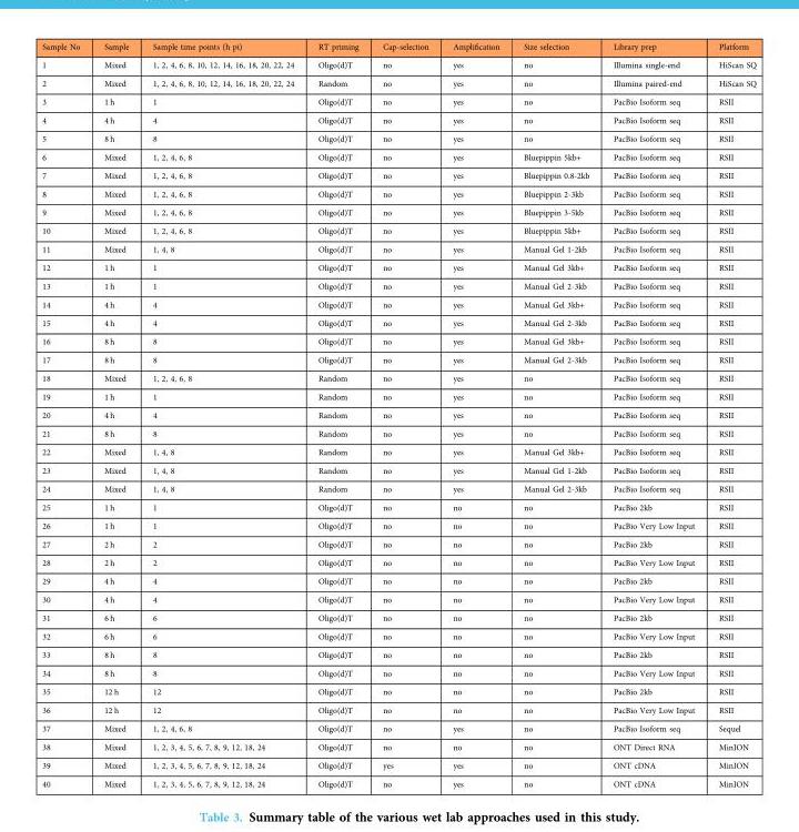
<table><thead><tr><td>Sample No</td><td>Sample</td><td>Sample time points (h pi)</td><td>RT priming</td><td>Cap-selection</td><td>Amplification</td><td>Size selection</td><td>Library prep</td><td>Platform</td></tr></thead><tbody><tr><td>1</td><td>Mixed</td><td>1, 2, 4, 6, 8, 10, 12, 14, 16, 18, 20, 22, 24</td><td>Oligo(d)T</td><td>no</td><td>yes</td><td>no</td><td>Illumina single-end</td><td>HiScan SQ</td></tr><tr><td>2</td><td>Mixed</td><td>1, 2, 4, 6, 8, 10, 12, 14, 16, 18, 20, 22, 24</td><td>Random</td><td>no</td><td>yes</td><td>no</td><td>Illumina paired-end</td><td>HiScan SQ</td></tr><tr><td>3</td><td>1 h</td><td>1</td><td>Oligo(d)T</td><td>no</td><td>yes</td><td>no</td><td>PacBio Isoform seq</td><td>RSII</td></tr><tr><td>4</td><td>4 h</td><td>4</td><td>Oligo(d)T</td><td>no</td><td>yes</td><td>no</td><td>PacBio Isoform seq</td><td>RSII</td></tr><tr><td>5</td><td>8 h</td><td>8</td><td>Oligo(d)T</td><td>no</td><td>yes</td><td>no</td><td>PacBio Isoform seq</td><td>RSII</td></tr><tr><td>6</td><td>Mixed</td><td>1, 2, 4, 6, 8</td><td>Oligo(d)T</td><td>no</td><td>yes</td><td>Bluepippin 5kb+</td><td>PacBio Isoform seq</td><td>RSII</td></tr><tr><td>7</td><td>Mixed</td><td>1, 2, 4, 6, 8</td><td>Oligo(d)T</td><td>no</td><td>yes</td><td>Bluepippin 0.8-2kb</td><td>PacBio Isoform seq</td><td>RSII</td></tr><tr><td>8</td><td>Mixed</td><td>1, 2, 4, 6, 8</td><td>Oligo(d)T</td><td>no</td><td>yes</td><td>Bluepippin 2-3kb</td><td>PacBio Isoform seq</td><td>RSII</td></tr><tr><td>9</td><td>Mixed</td><td>1, 2, 4, 6, 8</td><td>Oligo(d)T</td><td>no</td><td>yes</td><td>Bluepippin 3-5kb</td><td>PacBio Isoform seq</td><td>RSII</td></tr><tr><td>10</td><td>Mixed</td><td>1, 2, 4, 6, 8</td><td>Oligo(d)T</td><td>no</td><td>yes</td><td>Bluepippin 5kb+</td><td>PacBio Isoform seq</td><td>RSII</td></tr><tr><td>11</td><td>Mixed</td><td>1, 4, 8</td><td>Oligo(d)T</td><td>no</td><td>yes</td><td>Manual Gel 1-2kb</td><td>PacBio Isoform seq</td><td>RSII</td></tr><tr><td>12</td><td>1 h</td><td>1</td><td>Oligo(d)T</td><td>no</td><td>yes</td><td>Manual Gel 3kb+</td><td>PacBio Isoform seq</td><td>RSII</td></tr><tr><td>13</td><td>1 h</td><td>1</td><td>Oligo(d)T</td><td>no</td><td>yes</td><td>Manual Gel 2-3kb</td><td>PacBio Isoform seq</td><td>RSII</td></tr><tr><td>14</td><td>4 h</td><td>4</td><td>Oligo(d)T</td><td>no</td><td>yes</td><td>Manual Gel 3kb+</td><td>PacBio Isoform seq</td><td>RSII</td></tr><tr><td>15</td><td>4 h</td><td>4</td><td>Oligo(d)T</td><td>no</td><td>yes</td><td>Manual Gel 2-3kb</td><td>PacBio Isoform seq</td><td>RSII</td></tr><tr><td>16</td><td>8 h</td><td>8</td><td>Oligo(d)T</td><td>no</td><td>yes</td><td>Manual Gel 3kb+</td><td>PacBio Isoform seq</td><td>RSII</td></tr><tr><td>17</td><td>8 h</td><td>8</td><td>Oligo(d)T</td><td>no</td><td>yes</td><td>Manual Gel 2-3kb</td><td>PacBio Isoform seq</td><td>RSII</td></tr><tr><td>18</td><td>Mixed</td><td>1, 2, 4, 6, 8</td><td>Random</td><td>no</td><td>yes</td><td>no</td><td>PacBio Isoform seq</td><td>RSII</td></tr><tr><td>19</td><td>1 h</td><td>1</td><td>Random</td><td>no</td><td>yes</td><td>no</td><td>PacBio Isoform seq</td><td>RSII</td></tr><tr><td>20</td><td>4 h</td><td>4</td><td>Random</td><td>no</td><td>yes</td><td>no</td><td>PacBio Isoform seq</td><td>RSII</td></tr><tr><td>21</td><td>8 h</td><td>8</td><td>Random</td><td>no</td><td>yes</td><td>no</td><td>PacBio Isoform seq</td><td>RSII</td></tr><tr><td>22</td><td>Mixed</td><td>1, 4, 8</td><td>Random</td><td>no</td><td>yes</td><td>Manual Gel 3kb+</td><td>PacBio Isoform seq</td><td>RSII</td></tr><tr><td>23</td><td>Mixed</td><td>1, 4, 8</td><td>Random</td><td>no</td><td>yes</td><td>Manual Gel 1-2kb</td><td>PacBio Isoform seq</td><td>RSII</td></tr><tr><td>24</td><td>Mixed</td><td>1, 4, 8</td><td>Random</td><td>no</td><td>yes</td><td>Manual Gel 2-3kb</td><td>PacBio Isoform seq</td><td>RSII</td></tr><tr><td>25</td><td>1 h</td><td>1</td><td>Oligo(d)T</td><td>no</td><td>no</td><td>no</td><td>PacBio 2kb</td><td>RSII</td></tr><tr><td>26</td><td>1 h</td><td>1</td><td>Oligo(d)T</td><td>no</td><td>no</td><td>no</td><td>PacBio Very Low Input</td><td>RSII</td></tr><tr><td>27</td><td>2 h</td><td>2</td><td>Oligo(d)T</td><td>no</td><td>no</td><td>no</td><td>PacBio 2kb</td><td>RSII</td></tr><tr><td>28</td><td>2 h</td><td>2</td><td>Oligo(d)T</td><td>no</td><td>no</td><td>no</td><td>PacBio Very Low Input</td><td>RSII</td></tr><tr><td>29</td><td>4 h</td><td>4</td><td>Oligo(d)T</td><td>no</td><td>no</td><td>no</td><td>PacBio 2kb</td><td>RSII</td></tr><tr><td>30</td><td>4 h</td><td>4</td><td>Oligo(d)T</td><td>no</td><td>no</td><td>no</td><td>PacBio Very Low Input</td><td>RSII</td></tr><tr><td>31</td><td>6 h</td><td>6</td><td>Oligo(d)T</td><td>no</td><td>no</td><td>no</td><td>PacBio 2kb</td><td>RSII</td></tr><tr><td>32</td><td>6 h</td><td>6</td><td>Oligo(d)T</td><td>no</td><td>no</td><td>no</td><td>PacBio Very Low Input</td><td>RSII</td></tr><tr><td>33</td><td>8 h</td><td>8</td><td>Oligo(d)T</td><td>no</td><td>no</td><td>no</td><td>PacBio 2kb</td><td>RSII</td></tr><tr><td>34</td><td>8 h</td><td>8</td><td>Oligo(d)T</td><td>no</td><td>no</td><td>no</td><td>PacBio Very Low Input</td><td>RSII</td></tr><tr><td>35</td><td>12 h</td><td>12</td><td>Oligo(d)T</td><td>no</td><td>no</td><td>no</td><td>PacBio 2kb</td><td>RSII</td></tr><tr><td>36</td><td>12 h</td><td>12</td><td>Oligo(d)T</td><td>no</td><td>no</td><td>no</td><td>PacBio Very Low Input</td><td>RSII</td></tr><tr><td>37</td><td>Mixed</td><td>1, 2, 4, 6, 8</td><td>Oligo(d)T</td><td>no</td><td>yes</td><td>no</td><td>PacBio Isoform seq</td><td>Sequel</td></tr><tr><td>38</td><td>Mixed</td><td>1, 2, 3, 4, 5, 6, 7, 8, 9, 12, 18, 24</td><td>Oligo(d)T</td><td>no</td><td>no</td><td>no</td><td>ONT Direct RNA</td><td>MinION</td></tr><tr><td>39</td><td>Mixed</td><td>1, 2, 3, 4, 5, 6, 7, 8, 9, 12, 18, 24</td><td>Oligo(d)T</td><td>yes</td><td>yes</td><td>no</td><td>ONT cDNA</td><td>MinION</td></tr><tr><td>40</td><td>Mixed</td><td>1, 2, 3, 4, 5, 6, 7, 8, 9, 12, 18, 24</td><td>Oligo(d)T</td><td>no</td><td>yes</td><td>no</td><td>ONT cDNA</td><td>MinION</td></tr></tbody></table>